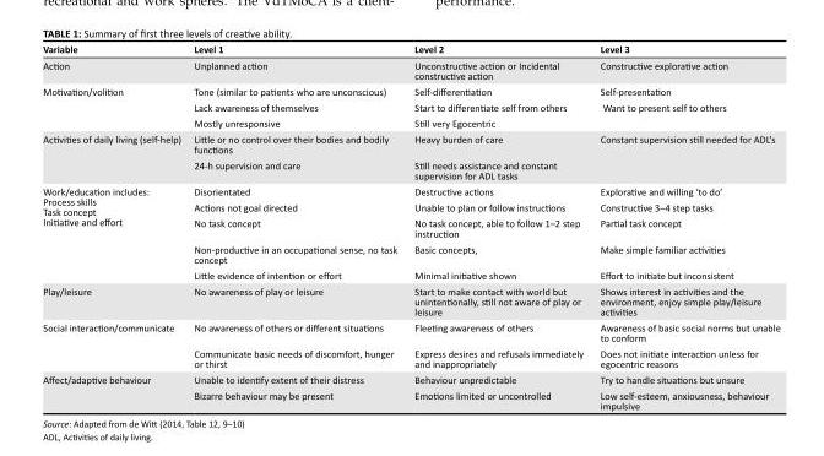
<table><thead><tr><td>Variable</td><td>Level 1</td><td>Level 2</td><td>Level 3</td></tr></thead><tbody><tr><td>Action</td><td>Unplanned action</td><td>Unconstructive action or Incidental constructive action</td><td>Constructive explorative action</td></tr><tr><td rowspan="3">Motivation/volition</td><td>Tone (similar to patients who are unconscious)</td><td>Self-differentiation</td><td>Self-presentation</td></tr><tr><td>Lack awareness of themselves</td><td>Start to differentiate self from others</td><td>Want to present self to others</td></tr><tr><td>Mostly unresponsive</td><td>Still very Egocentric</td><td></td></tr><tr><td rowspan="2">Activities of daily living (self-help)</td><td>Little or no control over their bodies and bodily functions</td><td>Heavy burden of care</td><td>Constant supervision still needed for ADL’s</td></tr><tr><td>24-h supervision and care</td><td>Still needs assistance and constant supervision for ADL tasks</td><td></td></tr><tr><td rowspan="5">Work/education includes: Process skills Task concept Initiative and effort</td><td>Disorientated</td><td>Destructive actions</td><td>Explorative and willing ‘to do’</td></tr><tr><td>Actions not goal directed</td><td>Unable to plan or follow instructions</td><td>Constructive 3–4 step tasks</td></tr><tr><td>No task concept</td><td>No task concept, able to follow 1–2 step instruction</td><td>Partial task concept</td></tr><tr><td>Non-productive in an occupational sense, no task concept</td><td>Basic concepts,</td><td>Make simple familiar activities</td></tr><tr><td>Little evidence of intention or effort</td><td>Minimal initiative shown</td><td>Effort to initiate but inconsistent</td></tr><tr><td>Play/leisure</td><td>No awareness of play or leisure</td><td>Start to make contact with world but unintentionally, still not aware of play or leisure</td><td>Shows interest in activities and the environment, enjoy simple play/leisure activities</td></tr><tr><td rowspan="2">Social interaction/communicate</td><td>No awareness of others or different situations</td><td>Fleeting awareness of others</td><td>Awareness of basic social norms but unable to conform</td></tr><tr><td>Communicate basic needs of discomfort, hunger or thirst</td><td>Express desires and refusals immediately and inappropriately</td><td>Does not initiate interaction unless for egocentric reasons</td></tr><tr><td rowspan="2">Affect/adaptive behaviour</td><td>Unable to identify extent of their distress</td><td>Behaviour unpredictable</td><td>Try to handle situations but unsure</td></tr><tr><td>Bizarre behaviour may be present</td><td>Emotions limited or uncontrolled</td><td>Low self-esteem, anxiousness, behaviour impulsive</td></tr></tbody></table>